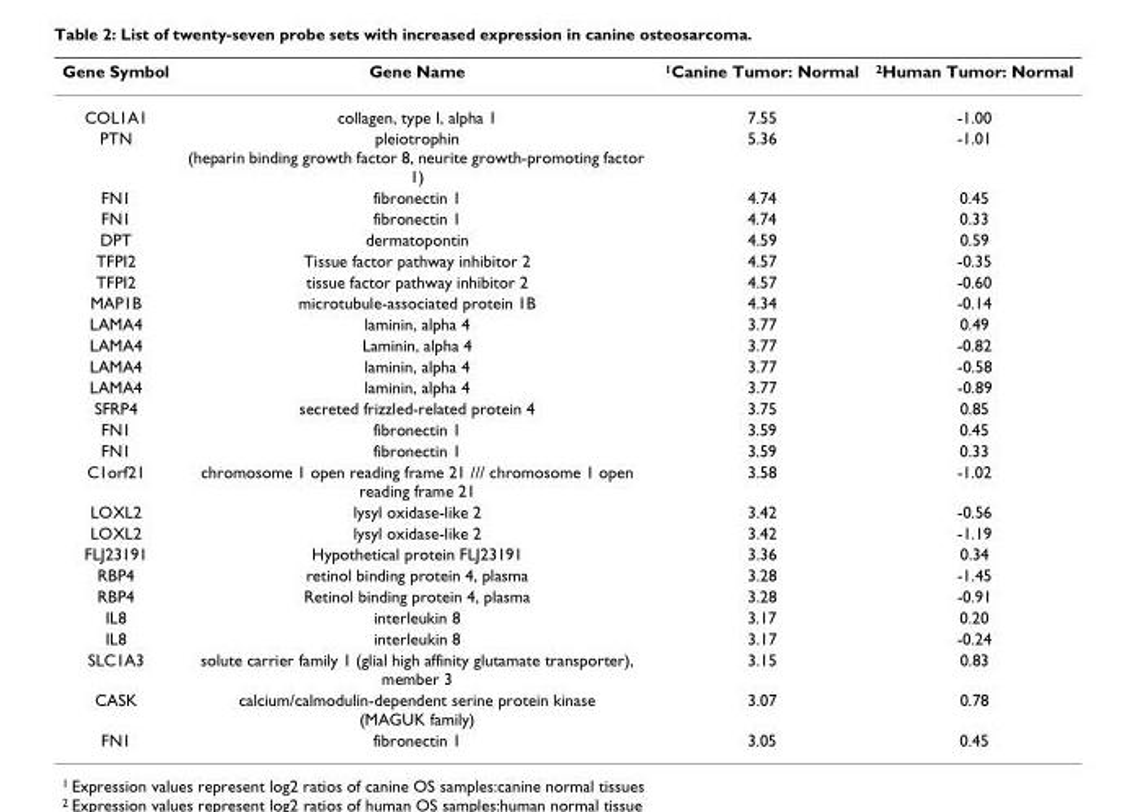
<table><thead><tr><td>Gene Symbol</td><td>Gene Name</td><td><sup>1</sup>Canine Tumor: Normal</td><td><sup>2</sup>Human Tumor: Normal</td></tr></thead><tbody><tr><td>COL1A1</td><td>collagen, type I, alpha 1</td><td>7.55</td><td>-1.00</td></tr><tr><td>PTN</td><td>pleiotrophin (heparin binding growth factor 8, neurite growth-promoting factor 1)</td><td>5.36</td><td>-1.01</td></tr><tr><td>FN1</td><td>fibronectin 1</td><td>4.74</td><td>0.45</td></tr><tr><td>FN1</td><td>fibronectin 1</td><td>4.74</td><td>0.33</td></tr><tr><td>DPT</td><td>dermatopontin</td><td>4.59</td><td>0.59</td></tr><tr><td>TFPI2</td><td>Tissue factor pathway inhibitor 2</td><td>4.57</td><td>-0.35</td></tr><tr><td>TFPI2</td><td>tissue factor pathway inhibitor 2</td><td>4.57</td><td>-0.60</td></tr><tr><td>MAP1B</td><td>microtubule-associated protein 1B</td><td>4.34</td><td>-0.14</td></tr><tr><td>LAMA4</td><td>laminin, alpha 4</td><td>3.77</td><td>0.49</td></tr><tr><td>LAMA4</td><td>Laminin, alpha 4</td><td>3.77</td><td>-0.82</td></tr><tr><td>LAMA4</td><td>laminin, alpha 4</td><td>3.77</td><td>-0.58</td></tr><tr><td>LAMA4</td><td>laminin, alpha 4</td><td>3.77</td><td>-0.89</td></tr><tr><td>SFRP4</td><td>secreted frizzled-related protein 4</td><td>3.75</td><td>0.85</td></tr><tr><td>FN1</td><td>fibronectin 1</td><td>3.59</td><td>0.45</td></tr><tr><td>FN1</td><td>fibronectin 1</td><td>3.59</td><td>0.33</td></tr><tr><td>C1orf21</td><td>chromosome 1 open reading frame 21 /// chromosome 1 open reading frame 21</td><td>3.58</td><td>-1.02</td></tr><tr><td>LOXL2</td><td>lysyl oxidase-like 2</td><td>3.42</td><td>-0.56</td></tr><tr><td>LOXL2</td><td>lysyl oxidase-like 2</td><td>3.42</td><td>-1.19</td></tr><tr><td>FLJ23191</td><td>Hypothetical protein FLJ23191</td><td>3.36</td><td>0.34</td></tr><tr><td>RBP4</td><td>retinol binding protein 4, plasma</td><td>3.28</td><td>-1.45</td></tr><tr><td>RBP4</td><td>Retinol binding protein 4, plasma</td><td>3.28</td><td>-0.91</td></tr><tr><td>IL8</td><td>interleukin 8</td><td>3.17</td><td>0.20</td></tr><tr><td>IL8</td><td>interleukin 8</td><td>3.17</td><td>-0.24</td></tr><tr><td>SLC1A3</td><td>solute carrier family 1 (glial high affinity glutamate transporter), member 3</td><td>3.15</td><td>0.83</td></tr><tr><td>CASK</td><td>calcium/calmodulin-dependent serine protein kinase (MAGUK family)</td><td>3.07</td><td>0.78</td></tr><tr><td>FN1</td><td>fibronectin 1</td><td>3.05</td><td>0.45</td></tr></tbody></table>